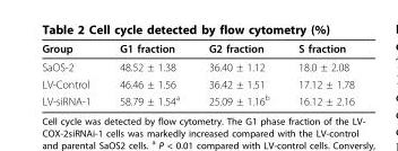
<table><thead><tr><td>Group</td><td>G1 fraction</td><td>G2 fraction</td><td>S fraction</td></tr></thead><tbody><tr><td>SaOS-2</td><td>48.52 ± 1.38</td><td>36.40 ± 1.12</td><td>18.0 ± 2.08</td></tr><tr><td>LV-Control</td><td>46.46 ± 1.56</td><td>36.42 ± 1.51</td><td>17.12 ± 1.78</td></tr><tr><td>LV-siRNA-1</td><td>58.79 ± 1.54<sup>a</sup></td><td>25.09 ± 1.16<sup>b</sup></td><td>16.12 ± 2.16</td></tr></tbody></table>